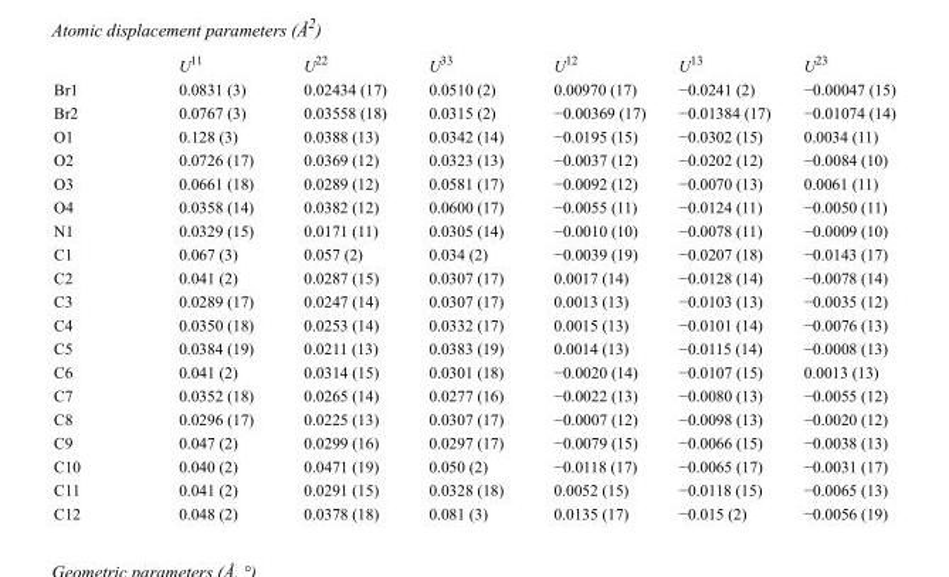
<table><thead><tr><td></td><td>U<sup>11</sup></td><td>U<sup>22</sup></td><td>U<sup>33</sup></td><td>U<sup>12</sup></td><td>U<sup>13</sup></td><td>U<sup>23</sup></td></tr></thead><tbody><tr><td>Br1</td><td>0.0831 (3)</td><td>0.02434 (17)</td><td>0.0510 (2)</td><td>0.00970 (17)</td><td>−0.0241 (2)</td><td>−0.00047 (15)</td></tr><tr><td>Br2</td><td>0.0767 (3)</td><td>0.03558 (18)</td><td>0.0315 (2)</td><td>−0.00369 (17)</td><td>−0.01384 (17)</td><td>−0.01074 (14)</td></tr><tr><td>O1</td><td>0.128 (3)</td><td>0.0388 (13)</td><td>0.0342 (14)</td><td>−0.0195 (15)</td><td>−0.0302 (15)</td><td>0.0034 (11)</td></tr><tr><td>O2</td><td>0.0726 (17)</td><td>0.0369 (12)</td><td>0.0323 (13)</td><td>−0.0037 (12)</td><td>−0.0202 (12)</td><td>−0.0084 (10)</td></tr><tr><td>O3</td><td>0.0661 (18)</td><td>0.0289 (12)</td><td>0.0581 (17)</td><td>−0.0092 (12)</td><td>−0.0070 (13)</td><td>0.0061 (11)</td></tr><tr><td>O4</td><td>0.0358 (14)</td><td>0.0382 (12)</td><td>0.0600 (17)</td><td>−0.0055 (11)</td><td>−0.0124 (11)</td><td>−0.0050 (11)</td></tr><tr><td>N1</td><td>0.0329 (15)</td><td>0.0171 (11)</td><td>0.0305 (14)</td><td>−0.0010 (10)</td><td>−0.0078 (11)</td><td>−0.0009 (10)</td></tr><tr><td>C1</td><td>0.067 (3)</td><td>0.057 (2)</td><td>0.034 (2)</td><td>−0.0039 (19)</td><td>−0.0207 (18)</td><td>−0.0143 (17)</td></tr><tr><td>C2</td><td>0.041 (2)</td><td>0.0287 (15)</td><td>0.0307 (17)</td><td>0.0017 (14)</td><td>−0.0128 (14)</td><td>−0.0078 (14)</td></tr><tr><td>C3</td><td>0.0289 (17)</td><td>0.0247 (14)</td><td>0.0307 (17)</td><td>0.0013 (13)</td><td>−0.0103 (13)</td><td>−0.0035 (12)</td></tr><tr><td>C4</td><td>0.0350 (18)</td><td>0.0253 (14)</td><td>0.0332 (17)</td><td>0.0015 (13)</td><td>−0.0101 (14)</td><td>−0.0076 (13)</td></tr><tr><td>C5</td><td>0.0384 (19)</td><td>0.0211 (13)</td><td>0.0383 (19)</td><td>0.0014 (13)</td><td>−0.0115 (14)</td><td>−0.0008 (13)</td></tr><tr><td>C6</td><td>0.041 (2)</td><td>0.0314 (15)</td><td>0.0301 (18)</td><td>−0.0020 (14)</td><td>−0.0107 (15)</td><td>0.0013 (13)</td></tr><tr><td>C7</td><td>0.0352 (18)</td><td>0.0265 (14)</td><td>0.0277 (16)</td><td>−0.0022 (13)</td><td>−0.0080 (13)</td><td>−0.0055 (12)</td></tr><tr><td>C8</td><td>0.0296 (17)</td><td>0.0225 (13)</td><td>0.0307 (17)</td><td>−0.0007 (12)</td><td>−0.0098 (13)</td><td>−0.0020 (12)</td></tr><tr><td>C9</td><td>0.047 (2)</td><td>0.0299 (16)</td><td>0.0297 (17)</td><td>−0.0079 (15)</td><td>−0.0066 (15)</td><td>−0.0038 (13)</td></tr><tr><td>C10</td><td>0.040 (2)</td><td>0.0471 (19)</td><td>0.050 (2)</td><td>−0.0118 (17)</td><td>−0.0065 (17)</td><td>−0.0031 (17)</td></tr><tr><td>C11</td><td>0.041 (2)</td><td>0.0291 (15)</td><td>0.0328 (18)</td><td>0.0052 (15)</td><td>−0.0118 (15)</td><td>−0.0065 (13)</td></tr><tr><td>C12</td><td>0.048 (2)</td><td>0.0378 (18)</td><td>0.081 (3)</td><td>0.0135 (17)</td><td>−0.015 (2)</td><td>−0.0056 (19)</td></tr></tbody></table>